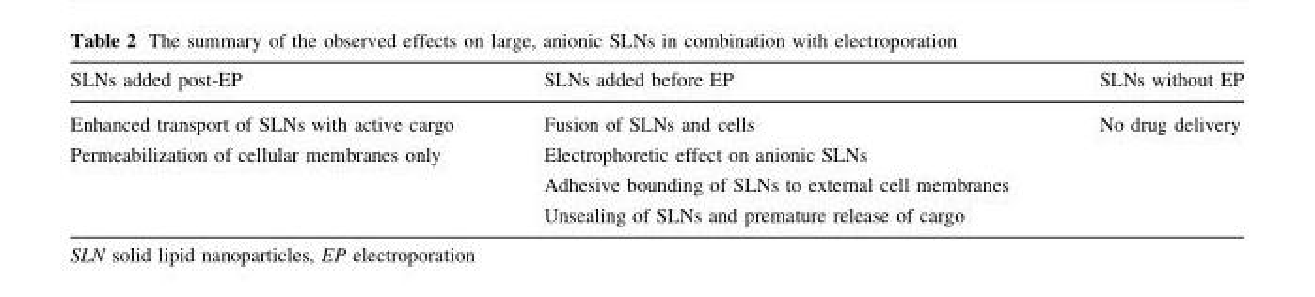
<table><thead><tr><td>SLNs added post-EP</td><td>SLNs added before EP</td><td>SLNs without EP</td></tr></thead><tbody><tr><td>Enhanced transport of SLNs with active cargo</td><td>Fusion of SLNs and cells</td><td>No drug delivery</td></tr><tr><td rowspan="3">Permeabilization of cellular membranes only</td><td>Electrophoretic effect on anionic SLNs</td><td></td></tr><tr><td>Adhesive bounding of SLNs to external cell membranes</td><td></td></tr><tr><td>Unsealing of SLNs and premature release of cargo</td><td></td></tr></tbody></table>